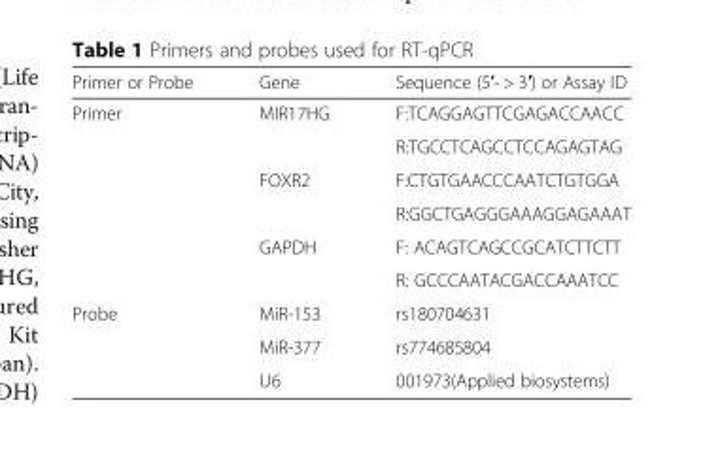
<table><thead><tr><td>Primer or Probe</td><td>Gene</td><td>Sequence (5′- &gt; 3′) or Assay ID</td></tr></thead><tbody><tr><td rowspan="6">Primer</td><td rowspan="2">MIR17HG</td><td>F:TCAGGAGTTCGAGACCAACC</td></tr><tr><td>R:TGCCTCAGCCTCCAGAGTAG</td></tr><tr><td rowspan="2">FOXR2</td><td>F:CTGTGAACCCAATCTGTGGA</td></tr><tr><td>R:GGCTGAGGGAAAGGAGAAAT</td></tr><tr><td rowspan="2">GAPDH</td><td>F: ACAGTCAGCCGCATCTTCTT</td></tr><tr><td>R: GCCCAATACGACCAAATCC</td></tr><tr><td rowspan="3">Probe</td><td>MiR-153</td><td>rs180704631</td></tr><tr><td>MiR-377</td><td>rs774685804</td></tr><tr><td>U6</td><td>001973(Applied biosystems)</td></tr></tbody></table>